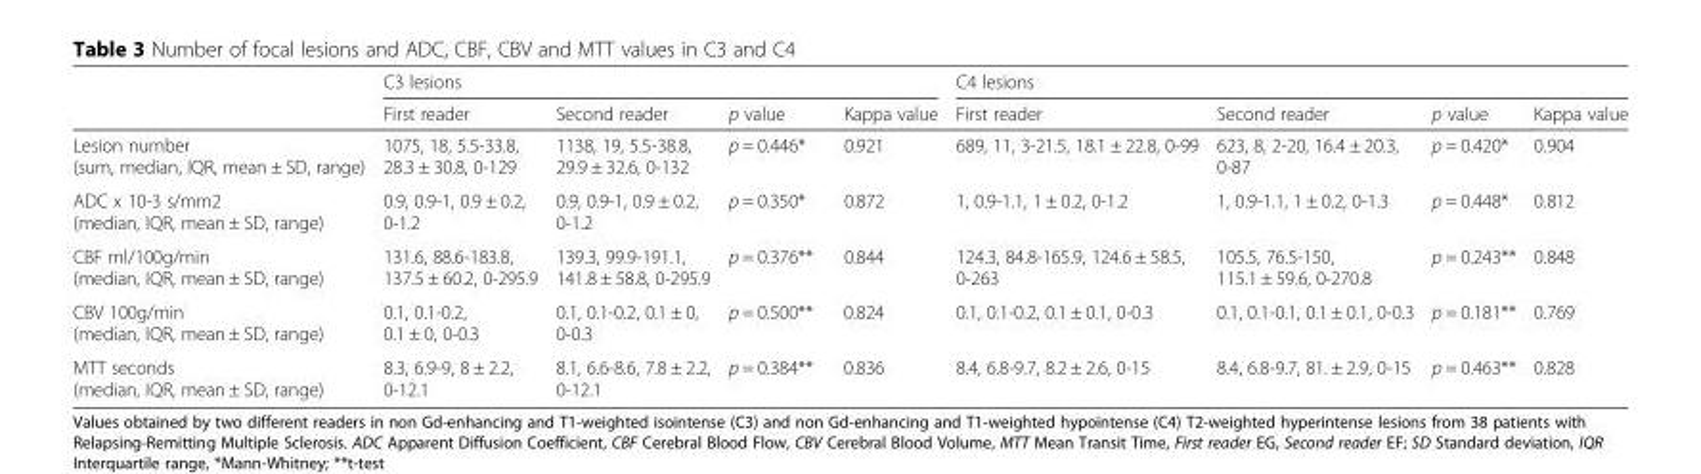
<table><thead><tr><td rowspan="2"></td><td colspan="4">C3 lesions</td><td colspan="4">C4 lesions</td></tr><tr><td>First reader</td><td>Second reader</td><td>p value</td><td>Kappa value</td><td>First reader</td><td>Second reader</td><td>p value</td><td>Kappa value</td></tr></thead><tbody><tr><td>Lesion number (sum, median, IQR, mean ± SD, range)</td><td>1075, 18, 5.5-33.8, 28.3 ± 30.8, 0-129</td><td>1138, 19, 5.5-38.8, 29.9 ± 32.6, 0-132</td><td>p = 0.446*</td><td>0.921</td><td>689, 11, 3-21.5, 18.1 ± 22.8, 0-99</td><td>623, 8, 2-20, 16.4 ± 20.3, 0-87</td><td>p = 0.420*</td><td>0.904</td></tr><tr><td>ADC x 10-3 s/mm2 (median, IQR, mean ± SD, range)</td><td>0.9, 0.9-1, 0.9 ± 0.2, 0-1.2</td><td>0.9, 0.9-1, 0.9 ± 0.2, 0-1.2</td><td>p = 0.350*</td><td>0.872</td><td>1, 0.9-1.1, 1 ± 0.2, 0-1.2</td><td>1, 0.9-1.1, 1 ± 0.2, 0-1.3</td><td>p = 0.448*</td><td>0.812</td></tr><tr><td>CBF ml/100g/min (median, IQR, mean ± SD, range)</td><td>131.6, 88.6-183.8, 137.5 ± 60.2, 0-295.9</td><td>139.3, 99.9-191.1, 141.8 ± 58.8, 0-295.9</td><td>p = 0.376**</td><td>0.844</td><td>124.3, 84.8-165.9, 124.6 ± 58.5, 0-263</td><td>105.5, 76.5-150, 115.1 ± 59.6, 0-270.8</td><td>p = 0.243**</td><td>0.848</td></tr><tr><td>CBV 100g/min (median, IQR, mean ± SD, range)</td><td>0.1, 0.1-0.2, 0.1 ± 0, 0-0.3</td><td>0.1, 0.1-0.2, 0.1 ± 0, 0-0.3</td><td>p = 0.500**</td><td>0.824</td><td>0.1, 0.1-0.2, 0.1 ± 0.1, 0-0.3</td><td>0.1, 0.1-0.1, 0.1 ± 0.1, 0-0.3</td><td>p = 0.181**</td><td>0.769</td></tr><tr><td>MTT seconds (median, IQR, mean ± SD, range)</td><td>8.3, 6.9-9, 8 ± 2.2, 0-12.1</td><td>8.1, 6.6-8.6, 7.8 ± 2.2, 0-12.1</td><td>p = 0.384**</td><td>0.836</td><td>8.4, 6.8-9.7, 8.2 ± 2.6, 0-15</td><td>8.4, 6.8-9.7, 81. ± 2.9, 0-15</td><td>p = 0.463**</td><td>0.828</td></tr></tbody></table>